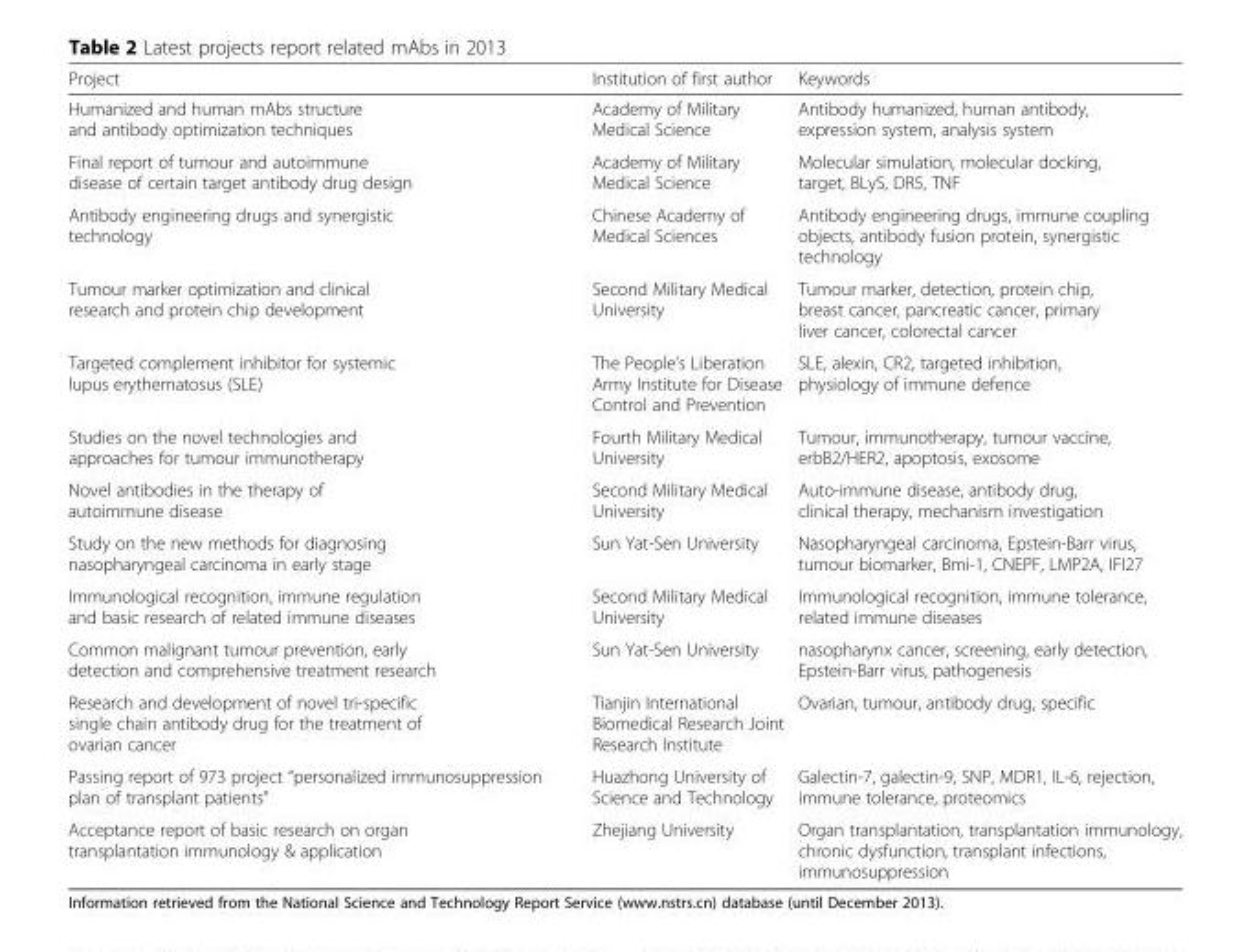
<table><thead><tr><td>Project</td><td>Institution of first author</td><td>Keywords</td></tr></thead><tbody><tr><td>Humanized and human mAbs structure and antibody optimization techniques</td><td>Academy of Military Medical Science</td><td>Antibody humanized, human antibody, expression system, analysis system</td></tr><tr><td>Final report of tumour and autoimmune disease of certain target antibody drug design</td><td>Academy of Military Medical Science</td><td>Molecular simulation, molecular docking, target, BLyS, DR5, TNF</td></tr><tr><td>Antibody engineering drugs and synergistic technology</td><td>Chinese Academy of Medical Sciences</td><td>Antibody engineering drugs, immune coupling objects, antibody fusion protein, synergistic technology</td></tr><tr><td>Tumour marker optimization and clinical research and protein chip development</td><td>Second Military Medical University</td><td>Tumour marker, detection, protein chip, breast cancer, pancreatic cancer, primary liver cancer, colorectal cancer</td></tr><tr><td>Targeted complement inhibitor for systemic lupus erythematosus (SLE)</td><td>The People’s Liberation Army Institute for Disease Control and Prevention</td><td>SLE, alexin, CR2, targeted inhibition, physiology of immune defence</td></tr><tr><td>Studies on the novel technologies and approaches for tumour immunotherapy</td><td>Fourth Military Medical University</td><td>Tumour, immunotherapy, tumour vaccine, erbB2/HER2, apoptosis, exosome</td></tr><tr><td>Novel antibodies in the therapy of autoimmune disease</td><td>Second Military Medical University</td><td>Auto-immune disease, antibody drug, clinical therapy, mechanism investigation</td></tr><tr><td>Study on the new methods for diagnosing nasopharyngeal carcinoma in early stage</td><td>Sun Yat-Sen University</td><td>Nasopharyngeal carcinoma, Epstein-Barr virus, tumour biomarker, Bmi-1, CNEPF, LMP2A, IFI27</td></tr><tr><td>Immunological recognition, immune regulation and basic research of related immune diseases</td><td>Second Military Medical University</td><td>Immunological recognition, immune tolerance, related immune diseases</td></tr><tr><td>Common malignant tumour prevention, early detection and comprehensive treatment research</td><td>Sun Yat-Sen University</td><td>nasopharynx cancer, screening, early detection, Epstein-Barr virus, pathogenesis</td></tr><tr><td>Research and development of novel tri-specific single chain antibody drug for the treatment of ovarian cancer</td><td>Tianjin International Biomedical Research Joint Research Institute</td><td>Ovarian, tumour, antibody drug, specific</td></tr><tr><td>Passing report of 973 project “personalized immunosuppression plan of transplant patients”</td><td>Huazhong University of Science and Technology</td><td>Galectin-7, galectin-9, SNP, MDR1, IL-6, rejection, immune tolerance, proteomics</td></tr><tr><td>Acceptance report of basic research on organ transplantation immunology &amp; application</td><td>Zhejiang University</td><td>Organ transplantation, transplantation immunology, chronic dysfunction, transplant infections, immunosuppression</td></tr></tbody></table>